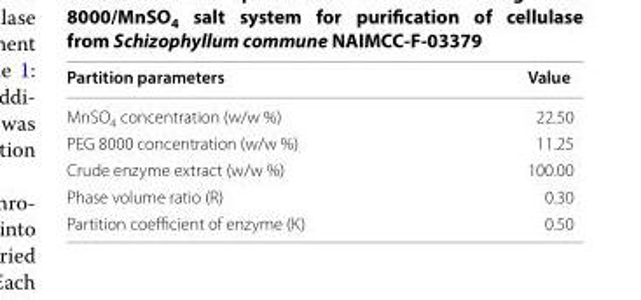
<table><thead><tr><td>Partition parameters</td><td>Value</td></tr></thead><tbody><tr><td>MnSO<sub>4</sub> concentration (w/w %)</td><td>22.50</td></tr><tr><td>PEG 8000 concentration (w/w %)</td><td>11.25</td></tr><tr><td>Crude enzyme extract (w/w %)</td><td>100.00</td></tr><tr><td>Phase volume ratio (R)</td><td>0.30</td></tr><tr><td>Partition coefficient of enzyme (K)</td><td>0.50</td></tr></tbody></table>